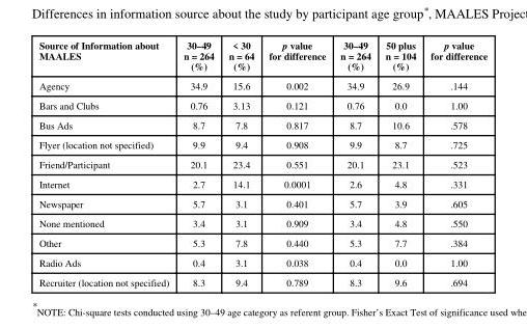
<table><thead><tr><td>Source of Information about MAALES</td><td>30–49 n = 264 (%)</td><td>&lt; 30 n = 64 (%)</td><td>p value for difference</td><td>30–49 n = 264 (%)</td><td>50 plus n = 104 (%)</td><td>p value for difference</td></tr></thead><tbody><tr><td>Agency</td><td>34.9</td><td>15.6</td><td>0.002</td><td>34.9</td><td>26.9</td><td>.144</td></tr><tr><td>Bars and Clubs</td><td>0.76</td><td>3.13</td><td>0.121</td><td>0.76</td><td>0.0</td><td>1.00</td></tr><tr><td>Bus Ads</td><td>8.7</td><td>7.8</td><td>0.817</td><td>8.7</td><td>10.6</td><td>.578</td></tr><tr><td>Flyer (location not specified)</td><td>9.9</td><td>9.4</td><td>0.908</td><td>9.9</td><td>8.7</td><td>.725</td></tr><tr><td>Friend/Participant</td><td>20.1</td><td>23.4</td><td>0.551</td><td>20.1</td><td>23.1</td><td>.523</td></tr><tr><td>Internet</td><td>2.7</td><td>14.1</td><td>0.0001</td><td>2.6</td><td>4.8</td><td>.331</td></tr><tr><td>Newspaper</td><td>5.7</td><td>3.1</td><td>0.401</td><td>5.7</td><td>3.9</td><td>.605</td></tr><tr><td>None mentioned</td><td>3.4</td><td>3.1</td><td>0.909</td><td>3.4</td><td>4.8</td><td>.550</td></tr><tr><td>Other</td><td>5.3</td><td>7.8</td><td>0.440</td><td>5.3</td><td>7.7</td><td>.384</td></tr><tr><td>Radio Ads</td><td>0.4</td><td>3.1</td><td>0.038</td><td>0.4</td><td>0.0</td><td>1.00</td></tr><tr><td>Recruiter (location not specified)</td><td>8.3</td><td>9.4</td><td>0.789</td><td>8.3</td><td>9.6</td><td>.694</td></tr></tbody></table>